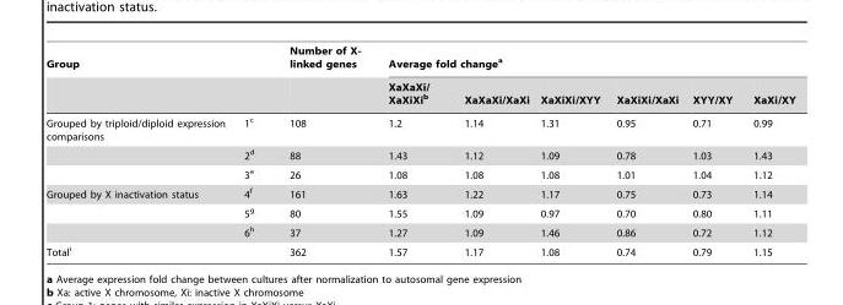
<table><thead><tr><td colspan="2">Group</td><td rowspan="2">Number of X- linked genes</td><td colspan="6">Average fold change<sup>a</sup></td></tr><tr><td></td><td></td><td>XaXaXi/ XaXiXi<sup>b</sup></td><td>XaXaXi/XaXi</td><td>XaXiXi/XYY</td><td>XaXiXi/XaXi</td><td>XYY/XY</td><td>XaXi/XY</td></tr></thead><tbody><tr><td rowspan="3">Grouped by triploid/diploid expression comparisons</td><td>1<sup>c</sup></td><td>108</td><td>1.2</td><td>1.14</td><td>1.31</td><td>0.95</td><td>0.71</td><td>0.99</td></tr><tr><td>2<sup>d</sup></td><td>88</td><td>1.43</td><td>1.12</td><td>1.09</td><td>0.78</td><td>1.03</td><td>1.43</td></tr><tr><td>3<sup>e</sup></td><td>26</td><td>1.08</td><td>1.08</td><td>1.08</td><td>1.01</td><td>1.04</td><td>1.12</td></tr><tr><td rowspan="3">Grouped by X inactivation status</td><td>4<sup>f</sup></td><td>161</td><td>1.63</td><td>1.22</td><td>1.17</td><td>0.75</td><td>0.73</td><td>1.14</td></tr><tr><td>5<sup>g</sup></td><td>80</td><td>1.55</td><td>1.09</td><td>0.97</td><td>0.70</td><td>0.80</td><td>1.11</td></tr><tr><td>6<sup>h</sup></td><td>37</td><td>1.27</td><td>1.09</td><td>1.46</td><td>0.86</td><td>0.72</td><td>1.12</td></tr><tr><td colspan="2">Total<sup>i</sup></td><td>362</td><td>1.57</td><td>1.17</td><td>1.08</td><td>0.74</td><td>0.79</td><td>1.15</td></tr></tbody></table>